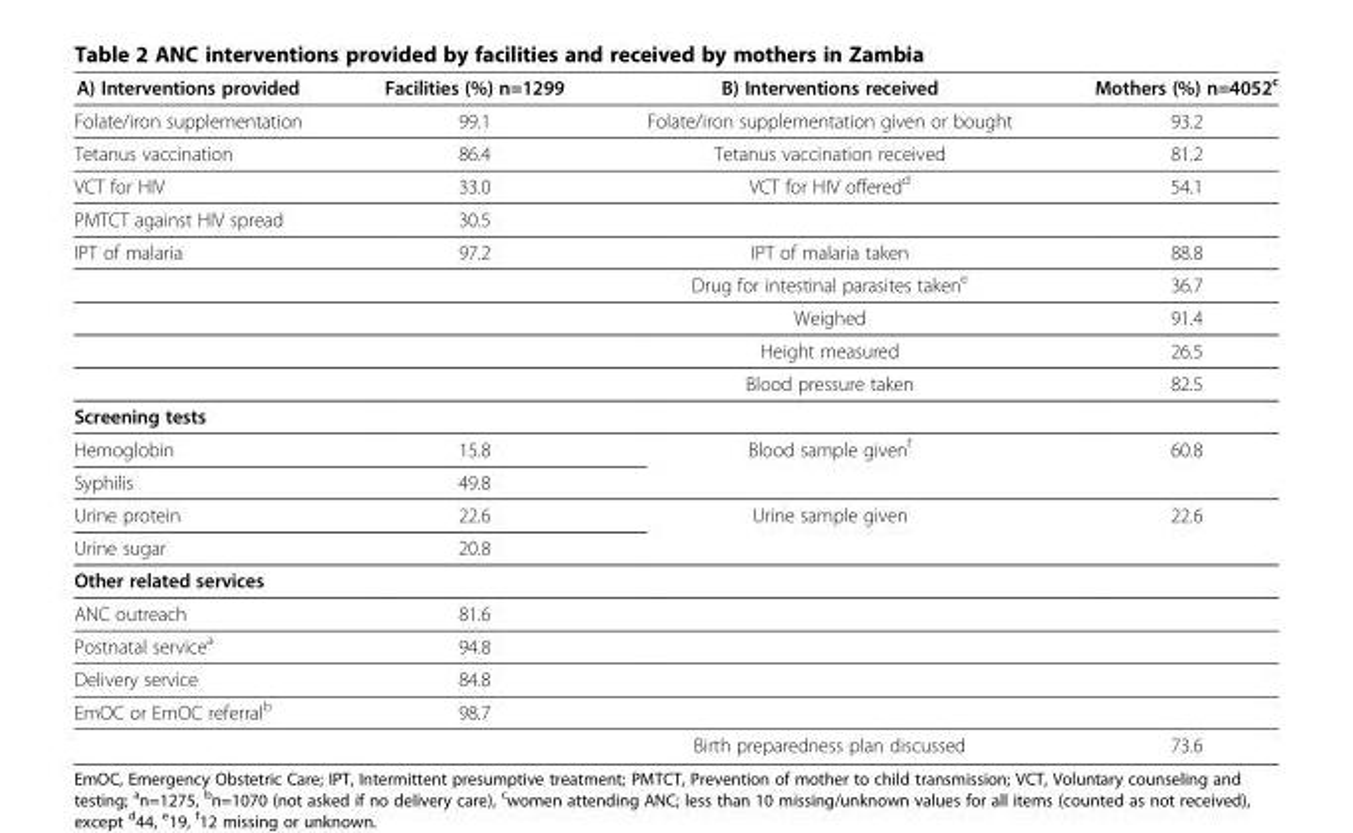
<table><thead><tr><td>A) Interventions provided</td><td>Facilities (%) n=1299</td><td>B) Interventions received</td><td>Mothers (%) n=4052<sup>c</sup></td></tr></thead><tbody><tr><td>Folate/iron supplementation</td><td>99.1</td><td>Folate/iron supplementation given or bought</td><td>93.2</td></tr><tr><td>Tetanus vaccination</td><td>86.4</td><td>Tetanus vaccination received</td><td>81.2</td></tr><tr><td>VCT for HIV</td><td>33.0</td><td>VCT for HIV offered<sup>d</sup></td><td>54.1</td></tr><tr><td>PMTCT against HIV spread</td><td>30.5</td><td></td><td></td></tr><tr><td rowspan="5">IPT of malaria</td><td>97.2</td><td>IPT of malaria taken</td><td>88.8</td></tr><tr><td></td><td>Drug for intestinal parasites taken<sup>e</sup></td><td>36.7</td></tr><tr><td></td><td>Weighed</td><td>91.4</td></tr><tr><td></td><td>Height measured</td><td>26.5</td></tr><tr><td></td><td>Blood pressure taken</td><td>82.5</td></tr><tr><td colspan="4">Screening tests</td></tr><tr><td>Hemoglobin</td><td>15.8</td><td rowspan="2">Blood sample given<sup>f</sup></td><td rowspan="2">60.8</td></tr><tr><td>Syphilis</td><td>49.8</td></tr><tr><td>Urine protein</td><td>22.6</td><td rowspan="2">Urine sample given</td><td rowspan="2">22.6</td></tr><tr><td>Urine sugar</td><td>20.8</td></tr><tr><td colspan="4">Other related services</td></tr><tr><td>ANC outreach</td><td>81.6</td><td></td><td></td></tr><tr><td>Postnatal service<sup>a</sup></td><td>94.8</td><td></td><td></td></tr><tr><td>Delivery service</td><td>84.8</td><td></td><td></td></tr><tr><td rowspan="2">EmOC or EmOC referral<sup>b</sup></td><td>98.7</td><td></td><td></td></tr><tr><td></td><td>Birth preparedness plan discussed</td><td>73.6</td></tr></tbody></table>